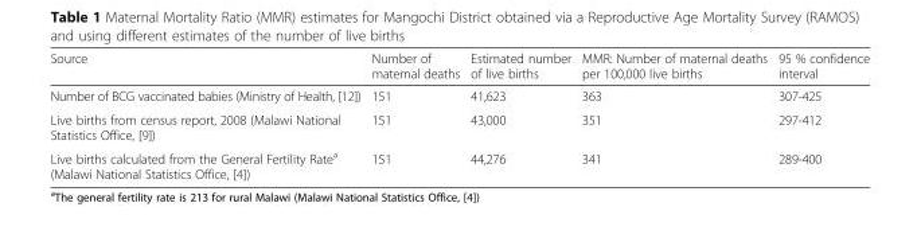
<table><thead><tr><td>Source</td><td>Number of maternal deaths</td><td>Estimated number of live births</td><td>MMR: Number of maternal deaths per 100,000 live births</td><td>95 % confidence interval</td></tr></thead><tbody><tr><td>Number of BCG vaccinated babies (Ministry of Health, [12])</td><td>151</td><td>41,623</td><td>363</td><td>307-425</td></tr><tr><td>Live births from census report, 2008 (Malawi National Statistics Office, [9])</td><td>151</td><td>43,000</td><td>351</td><td>297-412</td></tr><tr><td>Live births calculated from the General Fertility Rate<sup>a</sup> (Malawi National Statistics Office, [4])</td><td>151</td><td>44,276</td><td>341</td><td>289-400</td></tr></tbody></table>